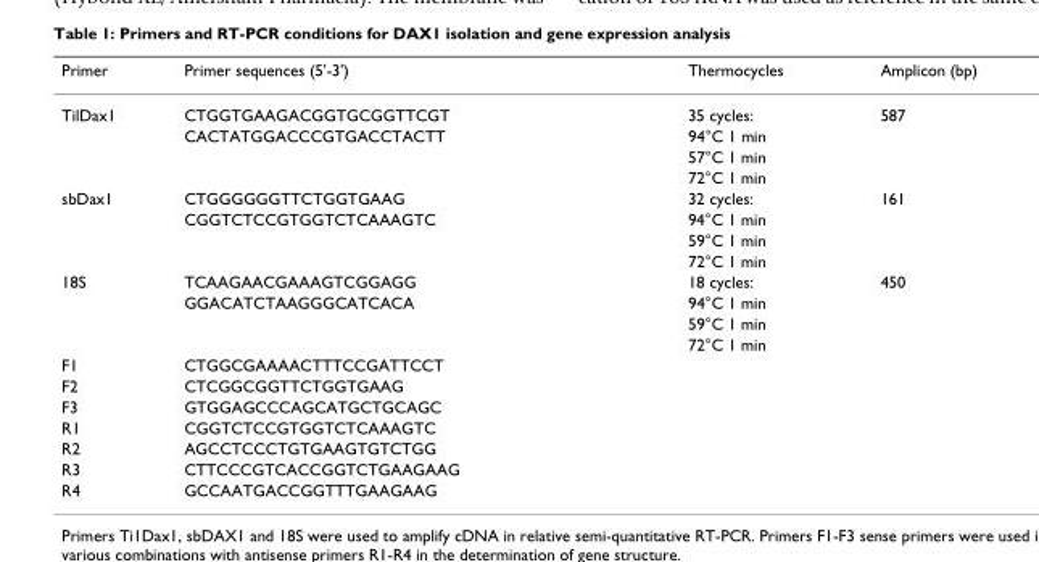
<table><thead><tr><td>Primer</td><td>Primer sequences (5&#x27;-3&#x27;)</td><td>Thermocycles</td><td>Amplicon (bp)</td></tr></thead><tbody><tr><td rowspan="4">TilDax1</td><td>CTGGTGAAGACGGTGCGGTTCGT</td><td>35 cycles:</td><td>587</td></tr><tr><td>CACTATGGACCCGTGACCTACTT</td><td>94°C 1 min</td><td></td></tr><tr><td></td><td>57°C 1 min</td><td></td></tr><tr><td></td><td>72°C 1 min</td><td></td></tr><tr><td rowspan="4">sbDax1</td><td>CTGGGGGGTTCTGGTGAAG</td><td>32 cycles:</td><td>161</td></tr><tr><td>CGGTCTCCGTGGTCTCAAAGTC</td><td>94°C 1 min</td><td></td></tr><tr><td></td><td>59°C 1 min</td><td></td></tr><tr><td></td><td>72°C 1 min</td><td></td></tr><tr><td rowspan="4">18S</td><td>TCAAGAACGAAAGTCGGAGG</td><td>18 cycles:</td><td>450</td></tr><tr><td>GGACATCTAAGGGCATCACA</td><td>94°C 1 min</td><td></td></tr><tr><td></td><td>59°C 1 min</td><td></td></tr><tr><td></td><td>72°C 1 min</td><td></td></tr><tr><td>F1</td><td>CTGGCGAAAACTTTCCGATTCCT</td><td></td><td></td></tr><tr><td>F2</td><td>CTCGGCGGTTCTGGTGAAG</td><td></td><td></td></tr><tr><td>F3</td><td>GTGGAGCCCAGCATGCTGCAGC</td><td></td><td></td></tr><tr><td>R1</td><td>CGGTCTCCGTGGTCTCAAAGTC</td><td></td><td></td></tr><tr><td>R2</td><td>AGCCTCCCTGTGAAGTGTCTGG</td><td></td><td></td></tr><tr><td>R3</td><td>CTTCCCGTCACCGGTCTGAAGAAG</td><td></td><td></td></tr><tr><td>R4</td><td>GCCAATGACCGGTTTGAAGAAG</td><td></td><td></td></tr></tbody></table>